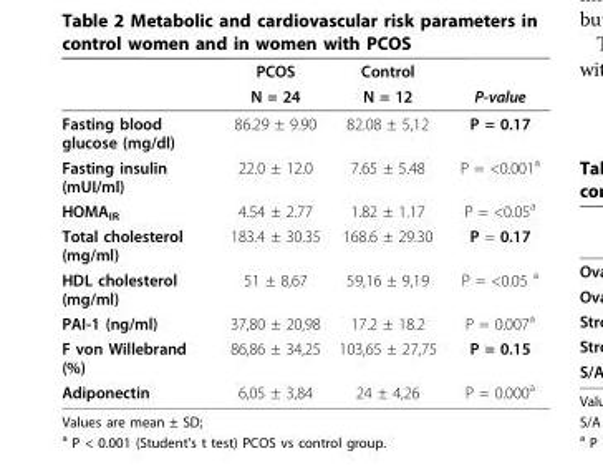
<table><thead><tr><td rowspan="2"></td><td rowspan="2">PCOS N = 24</td><td rowspan="2">Control N = 12</td><td rowspan="2">P-value</td></tr><tr></tr></thead><tbody><tr><td>Fasting blood glucose (mg/dl)</td><td>86.29 ± 9.90</td><td>82.08 ± 5,12</td><td>P = 0.17</td></tr><tr><td>Fasting insulin (mUI/ml)</td><td>22.0 ± 12.0</td><td>7.65 ± 5.48</td><td>P = &lt;0.001<sup>a</sup></td></tr><tr><td>HOMA<sub>IR</sub></td><td>4.54 ± 2.77</td><td>1.82 ± 1.17</td><td>P = &lt;0.05<sup>a</sup></td></tr><tr><td>Total cholesterol (mg/ml)</td><td>183.4 ± 30.35</td><td>168.6 ± 29.30</td><td>P = 0.17</td></tr><tr><td>HDL cholesterol (mg/ml)</td><td>51 ± 8,67</td><td>59,16 ± 9,19</td><td>P = &lt;0.05 <sup>a</sup></td></tr><tr><td>PAI-1 (ng/ml)</td><td>37,80 ± 20,98</td><td>17.2 ± 18.2</td><td>P = 0.007<sup>a</sup></td></tr><tr><td>F von Willebrand (%)</td><td>86,86 ± 34,25</td><td>103,65 ± 27,75</td><td>P = 0.15</td></tr><tr><td>Adiponectin</td><td>6,05 ± 3,84</td><td>24 ± 4,26</td><td>P = 0.000<sup>a</sup></td></tr></tbody></table>